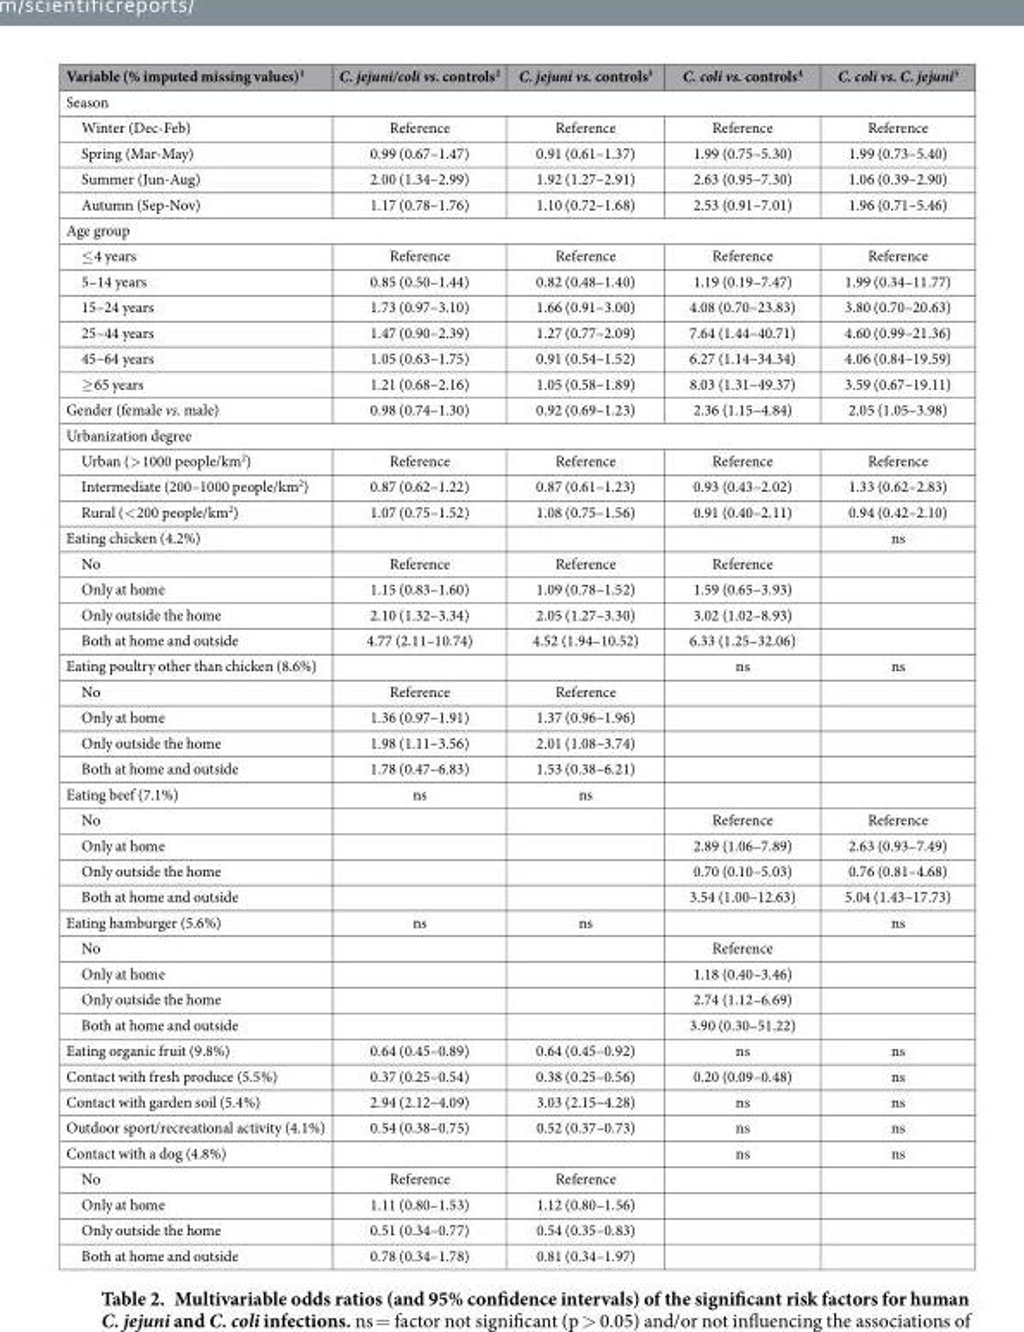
<table><thead><tr><td>Variable (% imputed missing values)<sup>1</sup></td><td>C. jejuni/coli vs. controls<sup>2</sup></td><td>C. jejuni vs. controls<sup>3</sup></td><td>C. coli vs. controls<sup>4</sup></td><td>C. coli vs. C. jejuni<sup>5</sup></td></tr></thead><tbody><tr><td colspan="5">Season</td></tr><tr><td>Winter (Dec-Feb)</td><td>Reference</td><td>Reference</td><td>Reference</td><td>Reference</td></tr><tr><td>Spring (Mar-May)</td><td>0.99 (0.67–1.47)</td><td>0.91 (0.61–1.37)</td><td>1.99 (0.75–5.30)</td><td>1.99 (0.73–5.40)</td></tr><tr><td>Summer (Jun-Aug)</td><td>2.00 (1.34–2.99)</td><td>1.92 (1.27–2.91)</td><td>2.63 (0.95–7.30)</td><td>1.06 (0.39–2.90)</td></tr><tr><td>Autumn (Sep-Nov)</td><td>1.17 (0.78–1.76)</td><td>1.10 (0.72–1.68)</td><td>2.53 (0.91–7.01)</td><td>1.96 (0.71–5.46)</td></tr><tr><td colspan="5">Age group</td></tr><tr><td>≤ 4 years</td><td>Reference</td><td>Reference</td><td>Reference</td><td>Reference</td></tr><tr><td>5–14 years</td><td>0.85 (0.50–1.44)</td><td>0.82 (0.48–1.40)</td><td>1.19 (0.19–7.47)</td><td>1.99 (0.34–11.77)</td></tr><tr><td>15–24 years</td><td>1.73 (0.97–3.10)</td><td>1.66 (0.91–3.00)</td><td>4.08 (0.70–23.83)</td><td>3.80 (0.70–20.63)</td></tr><tr><td>25–44 years</td><td>1.47 (0.90–2.39)</td><td>1.27 (0.77–2.09)</td><td>7.64 (1.44–40.71)</td><td>4.60 (0.99–21.36)</td></tr><tr><td>45–64 years</td><td>1.05 (0.63–1.75)</td><td>0.91 (0.54–1.52)</td><td>6.27 (1.14–34.34)</td><td>4.06 (0.84–19.59)</td></tr><tr><td>≥ 65 years</td><td>1.21 (0.68–2.16)</td><td>1.05 (0.58–1.89)</td><td>8.03 (1.31–49.37)</td><td>3.59 (0.67–19.11)</td></tr><tr><td>Gender (female vs. male)</td><td>0.98 (0.74–1.30)</td><td>0.92 (0.69–1.23)</td><td>2.36 (1.15–4.84)</td><td>2.05 (1.05–3.98)</td></tr><tr><td colspan="5">Urbanization degree</td></tr><tr><td>Urban (&gt; 1000 people/km<sup>2</sup>)</td><td>Reference</td><td>Reference</td><td>Reference</td><td>Reference</td></tr><tr><td>Intermediate (200–1000 people/km<sup>2</sup>)</td><td>0.87 (0.62–1.22)</td><td>0.87 (0.61–1.23)</td><td>0.93 (0.43–2.02)</td><td>1.33 (0.62–2.83)</td></tr><tr><td>Rural (&lt; 200 people/km<sup>2</sup>)</td><td>1.07 (0.75–1.52)</td><td>1.08 (0.75–1.56)</td><td>0.91 (0.40–2.11)</td><td>0.94 (0.42–2.10)</td></tr><tr><td>Eating chicken (4.2%)</td><td></td><td></td><td></td><td>ns</td></tr><tr><td>No</td><td>Reference</td><td>Reference</td><td>Reference</td><td></td></tr><tr><td>Only at home</td><td>1.15 (0.83–1.60)</td><td>1.09 (0.78–1.52)</td><td>1.59 (0.65–3.93)</td><td></td></tr><tr><td>Only outside the home</td><td>2.10 (1.32–3.34)</td><td>2.05 (1.27–3.30)</td><td>3.02 (1.02–8.93)</td><td></td></tr><tr><td>Both at home and outside</td><td>4.77 (2.11–10.74)</td><td>4.52 (1.94–10.52)</td><td>6.33 (1.25–32.06)</td><td></td></tr><tr><td>Eating poultry other than chicken (8.6%)</td><td></td><td></td><td>ns</td><td>ns</td></tr><tr><td>No</td><td>Reference</td><td>Reference</td><td></td><td></td></tr><tr><td>Only at home</td><td>1.36 (0.97–1.91)</td><td>1.37 (0.96–1.96)</td><td></td><td></td></tr><tr><td>Only outside the home</td><td>1.98 (1.11–3.56)</td><td>2.01 (1.08–3.74)</td><td></td><td></td></tr><tr><td>Both at home and outside</td><td>1.78 (0.47–6.83)</td><td>1.53 (0.38–6.21)</td><td></td><td></td></tr><tr><td>Eating beef (7.1%)</td><td>ns</td><td>ns</td><td></td><td></td></tr><tr><td>No</td><td></td><td></td><td>Reference</td><td>Reference</td></tr><tr><td>Only at home</td><td></td><td></td><td>2.89 (1.06–7.89)</td><td>2.63 (0.93–7.49)</td></tr><tr><td>Only outside the home</td><td></td><td></td><td>0.70 (0.10–5.03)</td><td>0.76 (0.81–4.68)</td></tr><tr><td>Both at home and outside</td><td></td><td></td><td>3.54 (1.00–12.63)</td><td>5.04 (1.43–17.73)</td></tr><tr><td>Eating hamburger (5.6%)</td><td>ns</td><td>ns</td><td></td><td>ns</td></tr><tr><td>No</td><td></td><td></td><td>Reference</td><td></td></tr><tr><td>Only at home</td><td></td><td></td><td>1.18 (0.40–3.46)</td><td></td></tr><tr><td>Only outside the home</td><td></td><td></td><td>2.74 (1.12–6.69)</td><td></td></tr><tr><td>Both at home and outside</td><td></td><td></td><td>3.90 (0.30–51.22)</td><td></td></tr><tr><td>Eating organic fruit (9.8%)</td><td>0.64 (0.45–0.89)</td><td>0.64 (0.45–0.92)</td><td>ns</td><td>ns</td></tr><tr><td>Contact with fresh produce (5.5%)</td><td>0.37 (0.25–0.54)</td><td>0.38 (0.25–0.56)</td><td>0.20 (0.09–0.48)</td><td>ns</td></tr><tr><td>Contact with garden soil (5.4%)</td><td>2.94 (2.12–4.09)</td><td>3.03 (2.15–4.28)</td><td>ns</td><td>ns</td></tr><tr><td>Outdoor sport/recreational activity (4.1%)</td><td>0.54 (0.38–0.75)</td><td>0.52 (0.37–0.73)</td><td>ns</td><td>ns</td></tr><tr><td>Contact with a dog (4.8%)</td><td></td><td></td><td>ns</td><td>ns</td></tr><tr><td>No</td><td>Reference</td><td>Reference</td><td></td><td></td></tr><tr><td>Only at home</td><td>1.11 (0.80–1.53)</td><td>1.12 (0.80–1.56)</td><td></td><td></td></tr><tr><td>Only outside the home</td><td>0.51 (0.34–0.77)</td><td>0.54 (0.35–0.83)</td><td></td><td></td></tr><tr><td>Both at home and outside</td><td>0.78 (0.34–1.78)</td><td>0.81 (0.34–1.97)</td><td></td><td></td></tr></tbody></table>